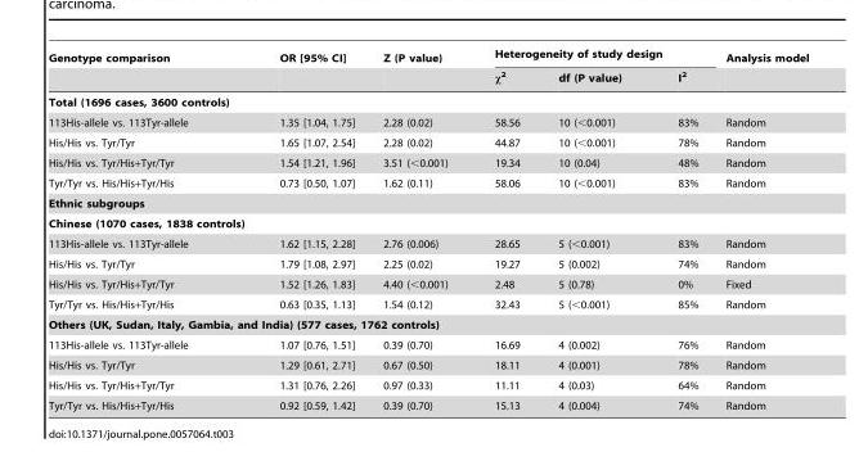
<table><thead><tr><td rowspan="2">Genotype comparison</td><td rowspan="2">OR [95% CI]</td><td rowspan="2">Z (P value)</td><td colspan="3">Heterogeneity of study design</td><td rowspan="2">Analysis model</td></tr><tr><td>x2</td><td>df (P value)</td><td>I<sup>2</sup></td></tr></thead><tbody><tr><td colspan="7">Total (1696 cases, 3600 controls)</td></tr><tr><td>113His-allele vs. 113Tyr-allele</td><td>1.35 [1.04, 1.75]</td><td>2.28 (0.02)</td><td>58.56</td><td>10 (&lt;0.001)</td><td>83%</td><td>Random</td></tr><tr><td>His/His vs. Tyr/Tyr</td><td>1.65 [1.07, 2.54]</td><td>2.28 (0.02)</td><td>44.87</td><td>10 (&lt;0.001)</td><td>78%</td><td>Random</td></tr><tr><td>His/His vs. Tyr/His+Tyr/Tyr</td><td>1.54 [1.21, 1.96]</td><td>3.51 (&lt;0.001)</td><td>19.34</td><td>10 (0.04)</td><td>48%</td><td>Random</td></tr><tr><td>Tyr/Tyr vs. His/His+Tyr/His</td><td>0.73 [0.50, 1.07]</td><td>1.62 (0.11)</td><td>58.06</td><td>10 (&lt;0.001)</td><td>83%</td><td>Random</td></tr><tr><td colspan="7">Ethnic subgroups</td></tr><tr><td colspan="7">Chinese (1070 cases, 1838 controls)</td></tr><tr><td>113His-allele vs. 113Tyr-allele</td><td>1.62 [1.15, 2.28]</td><td>2.76 (0.006)</td><td>28.65</td><td>5 (&lt;0.001)</td><td>83%</td><td>Random</td></tr><tr><td>His/His vs. Tyr/Tyr</td><td>1.79 [1.08, 2.97]</td><td>2.25 (0.02)</td><td>19.27</td><td>5 (0.002)</td><td>74%</td><td>Random</td></tr><tr><td>His/His vs. Tyr/His+Tyr/Tyr</td><td>1.52 [1.26, 1.83]</td><td>4.40 (&lt;0.001)</td><td>2.48</td><td>5 (0.78)</td><td>0%</td><td>Fixed</td></tr><tr><td>Tyr/Tyr vs. His/His+Tyr/His</td><td>0.63 [0.35, 1.13]</td><td>1.54 (0.12)</td><td>32.43</td><td>5 (&lt;0.001)</td><td>85%</td><td>Random</td></tr><tr><td colspan="7">Others (UK, Sudan, Italy, Gambia, and India) (577 cases, 1762 controls)</td></tr><tr><td>113His-allele vs. 113Tyr-allele</td><td>1.07 [0.76, 1.51]</td><td>0.39 (0.70)</td><td>16.69</td><td>4 (0.002)</td><td>76%</td><td>Random</td></tr><tr><td>His/His vs. Tyr/Tyr</td><td>1.29 [0.61, 2.71]</td><td>0.67 (0.50)</td><td>18.11</td><td>4 (0.001)</td><td>78%</td><td>Random</td></tr><tr><td>His/His vs. Tyr/His+Tyr/Tyr</td><td>1.31 [0.76, 2.26]</td><td>0.97 (0.33)</td><td>11.11</td><td>4 (0.03)</td><td>64%</td><td>Random</td></tr><tr><td>Tyr/Tyr vs. His/His+Tyr/His</td><td>0.92 [0.59, 1.42]</td><td>0.39 (0.70)</td><td>15.13</td><td>4 (0.004)</td><td>74%</td><td>Random</td></tr></tbody></table>